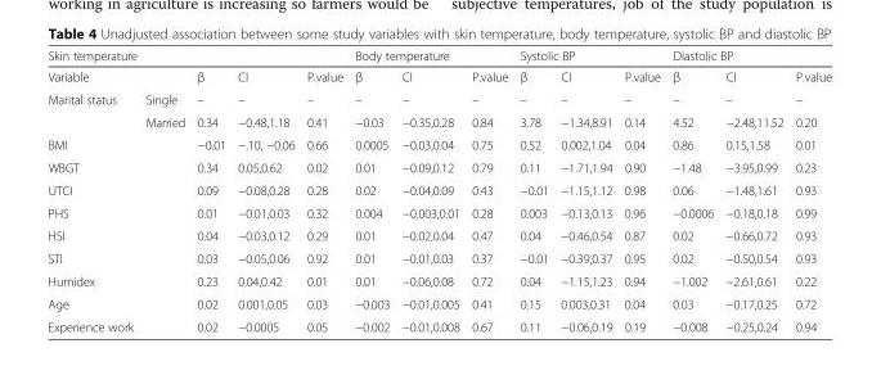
<table><thead><tr><td colspan="5">Skin temperature</td><td colspan="3">Body temperature</td><td colspan="3">Systolic BP</td><td colspan="3">Diastolic BP</td></tr><tr><td>Variable</td><td></td><td>β</td><td>CI</td><td>P.value</td><td>β</td><td>CI</td><td>P.value</td><td>β</td><td>CI</td><td>P.value</td><td>β</td><td>CI</td><td>P.value</td></tr></thead><tbody><tr><td rowspan="2">Marital status</td><td>Single</td><td>–</td><td>–</td><td>–</td><td>–</td><td>–</td><td>–</td><td>–</td><td>–</td><td>–</td><td>–</td><td>–</td><td>–</td></tr><tr><td>Married</td><td>0.34</td><td>−0.48,1.18</td><td>0.41</td><td>−0.03</td><td>−0.35,0.28</td><td>0.84</td><td>3.78</td><td>−1.34,8.91</td><td>0.14</td><td>4.52</td><td>−2.48,11.52</td><td>0.20</td></tr><tr><td>BMI</td><td></td><td>−0.01</td><td>−.10, −0.06</td><td>0.66</td><td>0.0005</td><td>−0.03,0.04</td><td>0.75</td><td>0.52</td><td>0.002,1.04</td><td>0.04</td><td>0.86</td><td>0.15,1.58</td><td>0.01</td></tr><tr><td>WBGT</td><td></td><td>0.34</td><td>0.05,0.62</td><td>0.02</td><td>0.01</td><td>−0.09,0.12</td><td>0.79</td><td>0.11</td><td>−1.71,1.94</td><td>0.90</td><td>−1.48</td><td>−3.95,0.99</td><td>0.23</td></tr><tr><td>UTCI</td><td></td><td>0.09</td><td>−0.08,0.28</td><td>0.28</td><td>0.02</td><td>−0.04,0.09</td><td>0.43</td><td>−0.01</td><td>−1.15,1.12</td><td>0.98</td><td>0.06</td><td>−1.48,1.61</td><td>0.93</td></tr><tr><td>PHS</td><td></td><td>0.01</td><td>−0.01,0.03</td><td>0.32</td><td>0.004</td><td>−0.003,0.01</td><td>0.28</td><td>0.003</td><td>−0.13,0.13</td><td>0.96</td><td>−0.0006</td><td>−0.18,0.18</td><td>0.99</td></tr><tr><td>HSI</td><td></td><td>0.04</td><td>−0.03,0.12</td><td>0.29</td><td>0.01</td><td>−0.02,0.04</td><td>0.47</td><td>0.04</td><td>−0.46,0.54</td><td>0.87</td><td>0.02</td><td>−0.66,0.72</td><td>0.93</td></tr><tr><td>STI</td><td></td><td>0.03</td><td>−0.05,0.06</td><td>0.92</td><td>0.01</td><td>−0.01,0.03</td><td>0.37</td><td>−0.01</td><td>−0.39,0.37</td><td>0.95</td><td>0.02</td><td>−0.50,0.54</td><td>0.93</td></tr><tr><td>Humidex</td><td></td><td>0.23</td><td>0.04,0.42</td><td>0.01</td><td>0.01</td><td>−0.06,0.08</td><td>0.72</td><td>0.04</td><td>−1.15,1.23</td><td>0.94</td><td>−1.002</td><td>−2.61,0.61</td><td>0.22</td></tr><tr><td>Age</td><td></td><td>0.02</td><td>0.001,0.05</td><td>0.03</td><td>−0.003</td><td>−0.01,0.005</td><td>0.41</td><td>0.15</td><td>0.003,0.31</td><td>0.04</td><td>0.03</td><td>−0.17,0.25</td><td>0.72</td></tr><tr><td>Experience work</td><td></td><td>0.02</td><td>−0.0005</td><td>0.05</td><td>−0.002</td><td>−0.01,0.008</td><td>0.67</td><td>0.11</td><td>−0.06,0.19</td><td>0.19</td><td>−0.008</td><td>−0.25,0.24</td><td>0.94</td></tr></tbody></table>